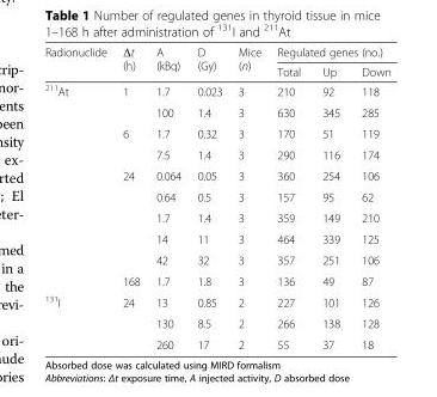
<table><thead><tr><td rowspan="2">Radionuclide</td><td rowspan="2">Δt (h)</td><td rowspan="2">A (kBq)</td><td rowspan="2">D (Gy)</td><td rowspan="2">Mice (n)</td><td colspan="3">Regulated genes (no.)</td></tr><tr><td>Total</td><td>Up</td><td>Down</td></tr></thead><tbody><tr><td rowspan="10"><sup>211</sup>At</td><td>1</td><td>1.7</td><td>0.023</td><td>3</td><td>210</td><td>92</td><td>118</td></tr><tr><td></td><td>100</td><td>1.4</td><td>3</td><td>630</td><td>345</td><td>285</td></tr><tr><td>6</td><td>1.7</td><td>0.32</td><td>3</td><td>170</td><td>51</td><td>119</td></tr><tr><td></td><td>7.5</td><td>1.4</td><td>3</td><td>290</td><td>116</td><td>174</td></tr><tr><td>24</td><td>0.064</td><td>0.05</td><td>3</td><td>360</td><td>254</td><td>106</td></tr><tr><td></td><td>0.64</td><td>0.5</td><td>3</td><td>157</td><td>95</td><td>62</td></tr><tr><td></td><td>1.7</td><td>1.4</td><td>3</td><td>359</td><td>149</td><td>210</td></tr><tr><td></td><td>14</td><td>11</td><td>3</td><td>464</td><td>339</td><td>125</td></tr><tr><td></td><td>42</td><td>32</td><td>3</td><td>357</td><td>251</td><td>106</td></tr><tr><td>168</td><td>1.7</td><td>1.8</td><td>3</td><td>136</td><td>49</td><td>87</td></tr><tr><td rowspan="3"><sup>131</sup>I</td><td>24</td><td>13</td><td>0.85</td><td>2</td><td>227</td><td>101</td><td>126</td></tr><tr><td></td><td>130</td><td>8.5</td><td>2</td><td>266</td><td>138</td><td>128</td></tr><tr><td></td><td>260</td><td>17</td><td>2</td><td>55</td><td>37</td><td>18</td></tr></tbody></table>